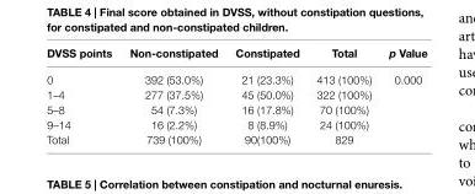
<table><thead><tr><td>DVss points</td><td>non-constipated</td><td>constipated</td><td>Total</td><td>p Value</td></tr></thead><tbody><tr><td>0</td><td>392 (53.0%)</td><td>21 (23.3%)</td><td>413 (100%)</td><td rowspan="4">0.000</td></tr><tr><td>1–4</td><td>277 (37.5%)</td><td>45 (50.0%)</td><td>322 (100%)</td></tr><tr><td>5–8</td><td>54 (7.3%)</td><td>16 (17.8%)</td><td>70 (100%)</td></tr><tr><td>9–14</td><td>16 (2.2%)</td><td>8 (8.9%)</td><td>24 (100%)</td></tr><tr><td>Total</td><td>739 (100%)</td><td>90(100%)</td><td>829</td><td></td></tr></tbody></table>